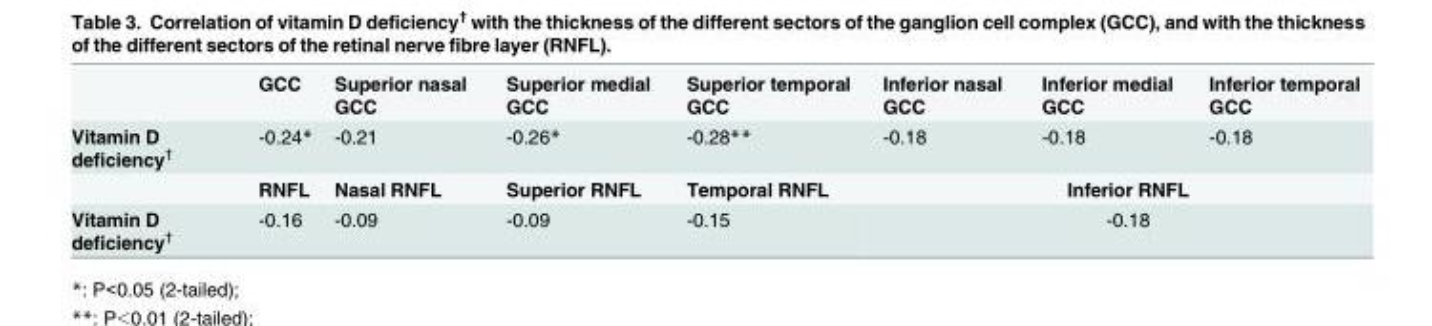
<table><thead><tr><td></td><td>GCC</td><td>Superior nasal GCC</td><td>Superior medial GCC</td><td>Superior temporal GCC</td><td>Inferior nasal GCC</td><td>Inferior medial GCC</td><td>Inferior temporal GCC</td></tr></thead><tbody><tr><td rowspan="2">Vitamin D deficiency<sup>†</sup></td><td>-0.24*</td><td>-0.21</td><td>-0.26*</td><td>-0.28**</td><td>-0.18</td><td>-0.18</td><td>-0.18</td></tr><tr><td>RNFL</td><td>Nasal RNFL</td><td>Superior RNFL</td><td>Temporal RNFL</td><td colspan="3">Inferior RNFL</td></tr><tr><td>Vitamin D deficiency<sup>†</sup></td><td>-0.16</td><td>-0.09</td><td>-0.09</td><td>-0.15</td><td colspan="3">-0.18</td></tr></tbody></table>